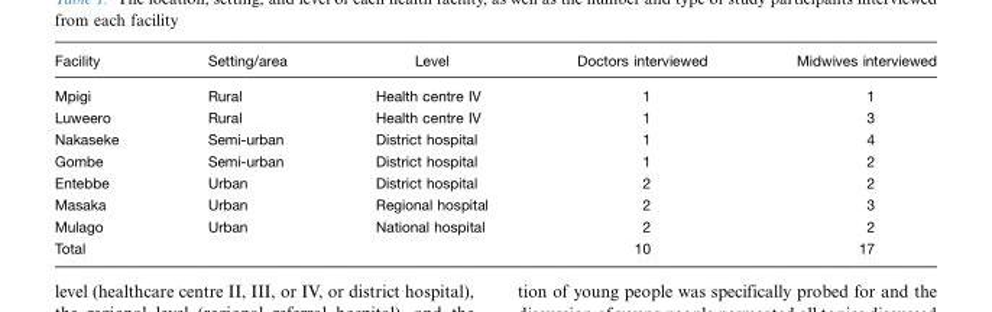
<table><thead><tr><td>Facility</td><td>Setting/area</td><td>Level</td><td>Doctors interviewed</td><td>Midwives interviewed</td></tr></thead><tbody><tr><td>Mpigi</td><td>Rural</td><td>Health centre IV</td><td>1</td><td>1</td></tr><tr><td>Luweero</td><td>Rural</td><td>Health centre IV</td><td>1</td><td>3</td></tr><tr><td>Nakaseke</td><td>Semi-urban</td><td>District hospital</td><td>1</td><td>4</td></tr><tr><td>Gombe</td><td>Semi-urban</td><td>District hospital</td><td>1</td><td>2</td></tr><tr><td>Entebbe</td><td>Urban</td><td>District hospital</td><td>2</td><td>2</td></tr><tr><td>Masaka</td><td>Urban</td><td>Regional hospital</td><td>2</td><td>3</td></tr><tr><td>Mulago</td><td>Urban</td><td>National hospital</td><td>2</td><td>2</td></tr><tr><td>Total</td><td></td><td></td><td>10</td><td>17</td></tr></tbody></table>